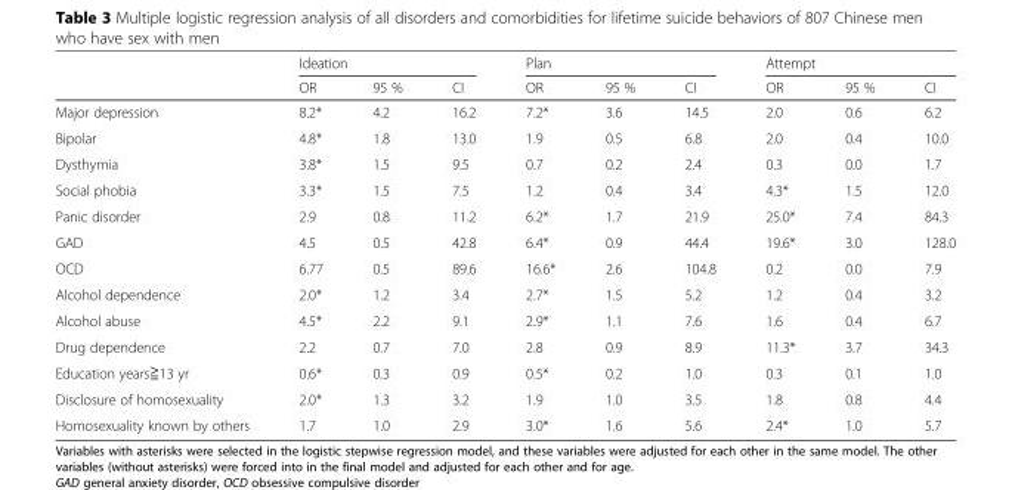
<table><thead><tr><td rowspan="2"></td><td colspan="3">Ideation</td><td colspan="3">Plan</td><td colspan="3">Attempt</td></tr><tr><td>OR</td><td>95 %</td><td>CI</td><td>OR</td><td>95 %</td><td>CI</td><td>OR</td><td>95 %</td><td>CI</td></tr></thead><tbody><tr><td>Major depression</td><td>8.2*</td><td>4.2</td><td>16.2</td><td>7.2*</td><td>3.6</td><td>14.5</td><td>2.0</td><td>0.6</td><td>6.2</td></tr><tr><td>Bipolar</td><td>4.8*</td><td>1.8</td><td>13.0</td><td>1.9</td><td>0.5</td><td>6.8</td><td>2.0</td><td>0.4</td><td>10.0</td></tr><tr><td>Dysthymia</td><td>3.8*</td><td>1.5</td><td>9.5</td><td>0.7</td><td>0.2</td><td>2.4</td><td>0.3</td><td>0.0</td><td>1.7</td></tr><tr><td>Social phobia</td><td>3.3*</td><td>1.5</td><td>7.5</td><td>1.2</td><td>0.4</td><td>3.4</td><td>4.3*</td><td>1.5</td><td>12.0</td></tr><tr><td>Panic disorder</td><td>2.9</td><td>0.8</td><td>11.2</td><td>6.2*</td><td>1.7</td><td>21.9</td><td>25.0*</td><td>7.4</td><td>84.3</td></tr><tr><td>GAD</td><td>4.5</td><td>0.5</td><td>42.8</td><td>6.4*</td><td>0.9</td><td>44.4</td><td>19.6*</td><td>3.0</td><td>128.0</td></tr><tr><td>OCD</td><td>6.77</td><td>0.5</td><td>89.6</td><td>16.6*</td><td>2.6</td><td>104.8</td><td>0.2</td><td>0.0</td><td>7.9</td></tr><tr><td>Alcohol dependence</td><td>2.0*</td><td>1.2</td><td>3.4</td><td>2.7*</td><td>1.5</td><td>5.2</td><td>1.2</td><td>0.4</td><td>3.2</td></tr><tr><td>Alcohol abuse</td><td>4.5*</td><td>2.2</td><td>9.1</td><td>2.9*</td><td>1.1</td><td>7.6</td><td>1.6</td><td>0.4</td><td>6.7</td></tr><tr><td>Drug dependence</td><td>2.2</td><td>0.7</td><td>7.0</td><td>2.8</td><td>0.9</td><td>8.9</td><td>11.3*</td><td>3.7</td><td>34.3</td></tr><tr><td>Education years≧13 yr</td><td>0.6*</td><td>0.3</td><td>0.9</td><td>0.5*</td><td>0.2</td><td>1.0</td><td>0.3</td><td>0.1</td><td>1.0</td></tr><tr><td>Disclosure of homosexuality</td><td>2.0*</td><td>1.3</td><td>3.2</td><td>1.9</td><td>1.0</td><td>3.5</td><td>1.8</td><td>0.8</td><td>4.4</td></tr><tr><td>Homosexuality known by others</td><td>1.7</td><td>1.0</td><td>2.9</td><td>3.0*</td><td>1.6</td><td>5.6</td><td>2.4*</td><td>1.0</td><td>5.7</td></tr></tbody></table>